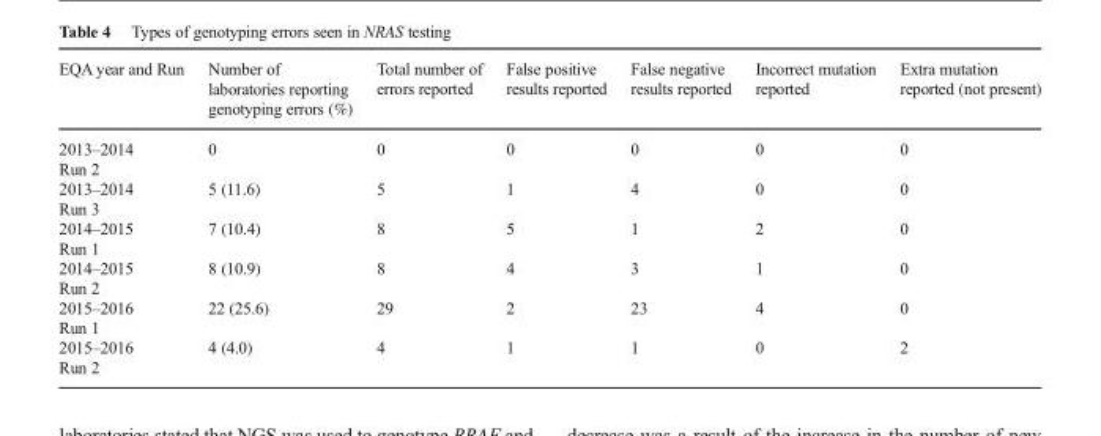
<table><thead><tr><td>EQA year and Run</td><td>Number of laboratories reporting genotyping errors (%)</td><td>Total number of errors reported</td><td>False positive results reported</td><td>False negative results reported</td><td>Incorrect mutation reported</td><td>Extra mutation reported (not present)</td></tr></thead><tbody><tr><td>2013–2014 Run 2</td><td>0</td><td>0</td><td>0</td><td>0</td><td>0</td><td>0</td></tr><tr><td>2013–2014 Run 3</td><td>5 (11.6)</td><td>5</td><td>1</td><td>4</td><td>0</td><td>0</td></tr><tr><td>2014–2015 Run 1</td><td>7 (10.4)</td><td>8</td><td>5</td><td>1</td><td>2</td><td>0</td></tr><tr><td>2014–2015 Run 2</td><td>8 (10.9)</td><td>8</td><td>4</td><td>3</td><td>1</td><td>0</td></tr><tr><td>2015–2016 Run 1</td><td>22 (25.6)</td><td>29</td><td>2</td><td>23</td><td>4</td><td>0</td></tr><tr><td>2015–2016 Run 2</td><td>4 (4.0)</td><td>4</td><td>1</td><td>1</td><td>0</td><td>2</td></tr></tbody></table>